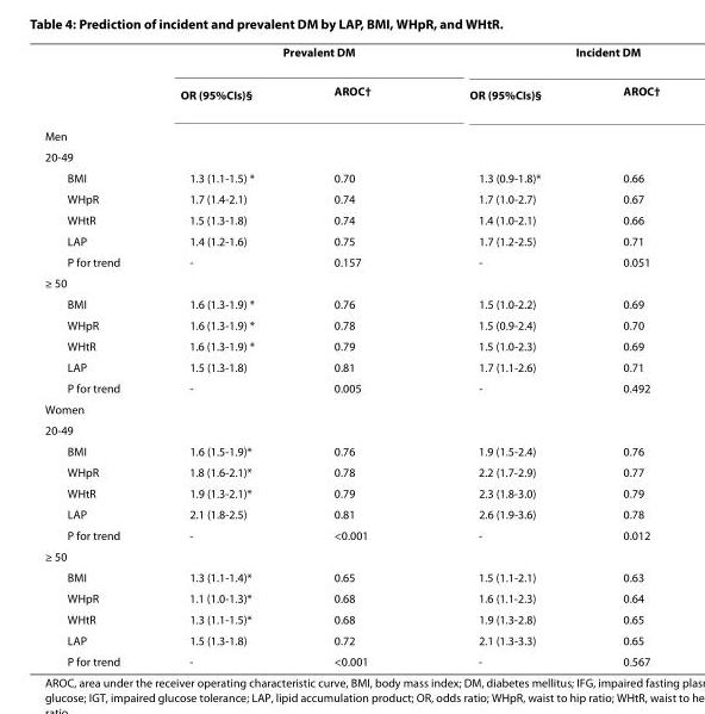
<table><thead><tr><td rowspan="2"></td><td colspan="2">Prevalent DM</td><td colspan="2">Incident DM</td></tr><tr><td>OR (95%CIs)<sup>§</sup></td><td>AROC†</td><td>OR (95%CIs)<sup>§</sup></td><td>AROC†</td></tr></thead><tbody><tr><td colspan="5">Men</td></tr><tr><td colspan="5">20-49</td></tr><tr><td>BMI</td><td>1.3 (1.1-1.5) *</td><td>0.70</td><td>1.3 (0.9-1.8)*</td><td>0.66</td></tr><tr><td>WHpR</td><td>1.7 (1.4-2.1)</td><td>0.74</td><td>1.7 (1.0-2.7)</td><td>0.67</td></tr><tr><td>WHtR</td><td>1.5 (1.3-1.8)</td><td>0.74</td><td>1.4 (1.0-2.1)</td><td>0.66</td></tr><tr><td>LAP</td><td>1.4 (1.2-1.6)</td><td>0.75</td><td>1.7 (1.2-2.5)</td><td>0.71</td></tr><tr><td>P for trend</td><td>-</td><td>0.157</td><td>-</td><td>0.051</td></tr><tr><td colspan="5">≥ 50</td></tr><tr><td>BMI</td><td>1.6 (1.3-1.9) *</td><td>0.76</td><td>1.5 (1.0-2.2)</td><td>0.69</td></tr><tr><td>WHpR</td><td>1.6 (1.3-1.9) *</td><td>0.78</td><td>1.5 (0.9-2.4)</td><td>0.70</td></tr><tr><td>WHtR</td><td>1.6 (1.3-1.9) *</td><td>0.79</td><td>1.5 (1.0-2.3)</td><td>0.69</td></tr><tr><td>LAP</td><td>1.5 (1.3-1.8)</td><td>0.81</td><td>1.7 (1.1-2.6)</td><td>0.71</td></tr><tr><td>P for trend</td><td>-</td><td>0.005</td><td>-</td><td>0.492</td></tr><tr><td colspan="5">Women</td></tr><tr><td colspan="5">20-49</td></tr><tr><td>BMI</td><td>1.6 (1.5-1.9)*</td><td>0.76</td><td>1.9 (1.5-2.4)</td><td>0.76</td></tr><tr><td>WHpR</td><td>1.8 (1.6-2.1)*</td><td>0.78</td><td>2.2 (1.7-2.9)</td><td>0.77</td></tr><tr><td>WHtR</td><td>1.9 (1.3-2.1)*</td><td>0.79</td><td>2.3 (1.8-3.0)</td><td>0.79</td></tr><tr><td>LAP</td><td>2.1 (1.8-2.5)</td><td>0.81</td><td>2.6 (1.9-3.6)</td><td>0.78</td></tr><tr><td>P for trend</td><td>-</td><td>&lt;0.001</td><td>-</td><td>0.012</td></tr><tr><td colspan="5">≥ 50</td></tr><tr><td>BMI</td><td>1.3 (1.1-1.4)*</td><td>0.65</td><td>1.5 (1.1-2.1)</td><td>0.63</td></tr><tr><td>WHpR</td><td>1.1 (1.0-1.3)*</td><td>0.68</td><td>1.6 (1.1-2.3)</td><td>0.64</td></tr><tr><td>WHtR</td><td>1.3 (1.1-1.5)*</td><td>0.68</td><td>1.9 (1.3-2.8)</td><td>0.65</td></tr><tr><td>LAP</td><td>1.5 (1.3-1.8)</td><td>0.72</td><td>2.1 (1.3-3.3)</td><td>0.65</td></tr><tr><td>P for trend</td><td>-</td><td>&lt;0.001</td><td>-</td><td>0.567</td></tr></tbody></table>